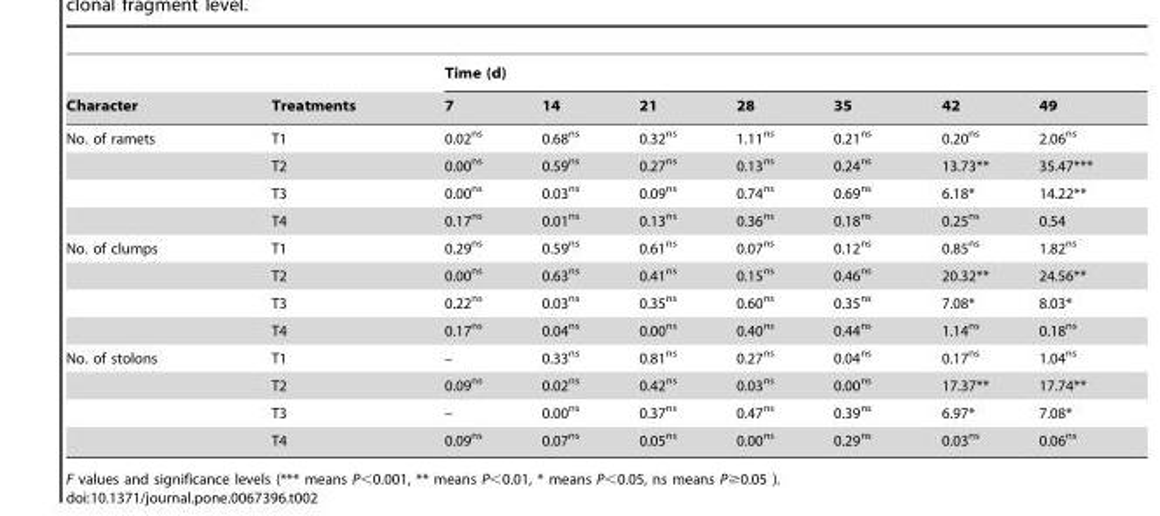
<table><thead><tr><td rowspan="2">Character</td><td rowspan="2">Treatments</td><td colspan="7">Time (d)</td></tr><tr><td>7</td><td>14</td><td>21</td><td>28</td><td>35</td><td>42</td><td>49</td></tr></thead><tbody><tr><td rowspan="4">No. of ramets</td><td>T1</td><td>0.02<sup>ns</sup></td><td>0.68<sup>ns</sup></td><td>0.32<sup>ns</sup></td><td>1.11<sup>ns</sup></td><td>0.21<sup>ns</sup></td><td>0.20<sup>ns</sup></td><td>2.06<sup>ns</sup></td></tr><tr><td>T2</td><td>0.00<sup>ns</sup></td><td>0.59<sup>ns</sup></td><td>0.27<sup>ns</sup></td><td>0.13<sup>ns</sup></td><td>0.24<sup>ns</sup></td><td>13.73**</td><td>35.47***</td></tr><tr><td>T3</td><td>0.00<sup>ns</sup></td><td>0.03<sup>ns</sup></td><td>0.09<sup>ns</sup></td><td>0.74<sup>ns</sup></td><td>0.69<sup>ns</sup></td><td>6.18*</td><td>14.22**</td></tr><tr><td>T4</td><td>0.17<sup>ns</sup></td><td>0.01<sup>ns</sup></td><td>0.13<sup>ns</sup></td><td>0.36<sup>ns</sup></td><td>0.18<sup>ns</sup></td><td>0.25<sup>ns</sup></td><td>0.54</td></tr><tr><td rowspan="4">No. of clumps</td><td>T1</td><td>0.29<sup>ns</sup></td><td>0.59<sup>ns</sup></td><td>0.61<sup>ns</sup></td><td>0.07<sup>ns</sup></td><td>0.12<sup>ns</sup></td><td>0.85<sup>ns</sup></td><td>1.82<sup>ns</sup></td></tr><tr><td>T2</td><td>0.00<sup>ns</sup></td><td>0.63<sup>ns</sup></td><td>0.41<sup>ns</sup></td><td>0.15<sup>ns</sup></td><td>0.46<sup>ns</sup></td><td>20.32**</td><td>24.56**</td></tr><tr><td>T3</td><td>0.22<sup>ns</sup></td><td>0.03<sup>ns</sup></td><td>0.35<sup>ns</sup></td><td>0.60<sup>ns</sup></td><td>0.35<sup>ns</sup></td><td>7.08*</td><td>8.03*</td></tr><tr><td>T4</td><td>0.17<sup>ns</sup></td><td>0.04<sup>ns</sup></td><td>0.00<sup>ns</sup></td><td>0.40<sup>ns</sup></td><td>0.44<sup>ns</sup></td><td>1.14<sup>ns</sup></td><td>0.18<sup>ns</sup></td></tr><tr><td rowspan="4">No. of stolons</td><td>T1</td><td>–</td><td>0.33<sup>ns</sup></td><td>0.81<sup>ns</sup></td><td>0.27<sup>ns</sup></td><td>0.04<sup>ns</sup></td><td>0.17<sup>ns</sup></td><td>1.04<sup>ns</sup></td></tr><tr><td>T2</td><td>0.09<sup>ns</sup></td><td>0.02<sup>ns</sup></td><td>0.42<sup>ns</sup></td><td>0.03<sup>ns</sup></td><td>0.00<sup>ns</sup></td><td>17.37**</td><td>17.74**</td></tr><tr><td>T3</td><td>–</td><td>0.00<sup>ns</sup></td><td>0.37<sup>ns</sup></td><td>0.47<sup>ns</sup></td><td>0.39<sup>ns</sup></td><td>6.97*</td><td>7.08*</td></tr><tr><td>T4</td><td>0.09<sup>ns</sup></td><td>0.07<sup>ns</sup></td><td>0.05<sup>ns</sup></td><td>0.00<sup>ns</sup></td><td>0.29<sup>ns</sup></td><td>0.03<sup>ns</sup></td><td>0.06<sup>ns</sup></td></tr></tbody></table>